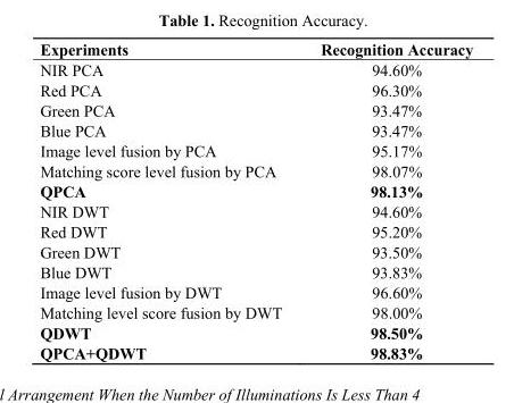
<table><thead><tr><td>Experiments</td><td>Recognition Accuracy</td></tr></thead><tbody><tr><td>NIR PCA</td><td>94.60%</td></tr><tr><td>Red PCA</td><td>96.30%</td></tr><tr><td>Green PCA</td><td>93.47%</td></tr><tr><td>Blue PCA</td><td>93.47%</td></tr><tr><td>Image level fusion by PCA</td><td>95.17%</td></tr><tr><td>Matching score level fusion by PCA</td><td>98.07%</td></tr><tr><td>QPCA</td><td>98.13%</td></tr><tr><td>NIR DWT</td><td>94.60%</td></tr><tr><td>Red DWT</td><td>95.20%</td></tr><tr><td>Green DWT</td><td>93.50%</td></tr><tr><td>Blue DWT</td><td>93.83%</td></tr><tr><td>Image level fusion by DWT</td><td>96.60%</td></tr><tr><td>Matching level score fusion by DWT</td><td>98.00%</td></tr><tr><td>QDWT</td><td>98.50%</td></tr><tr><td>QPCA+QDWT</td><td>98.83%</td></tr></tbody></table>